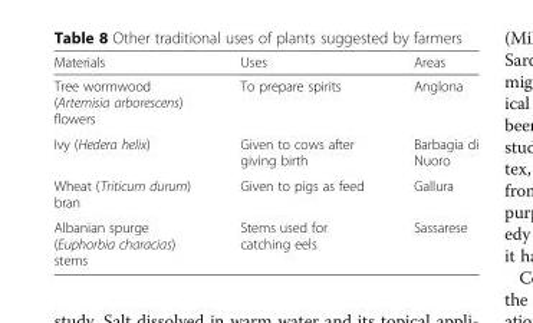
<table><thead><tr><td>Materials</td><td>Uses</td><td>Areas</td></tr></thead><tbody><tr><td>Tree wormwood (Artemisia arborescens) flowers</td><td>To prepare spirits</td><td>Anglona</td></tr><tr><td>Ivy (Hedera helix)</td><td>Given to cows after giving birth</td><td>Barbagia di Nuoro</td></tr><tr><td>Wheat (Triticum durum) bran</td><td>Given to pigs as feed</td><td>Gallura</td></tr><tr><td>Albanian spurge (Euphorbia characias) stems</td><td>Stems used for catching eels</td><td>Sassarese</td></tr></tbody></table>